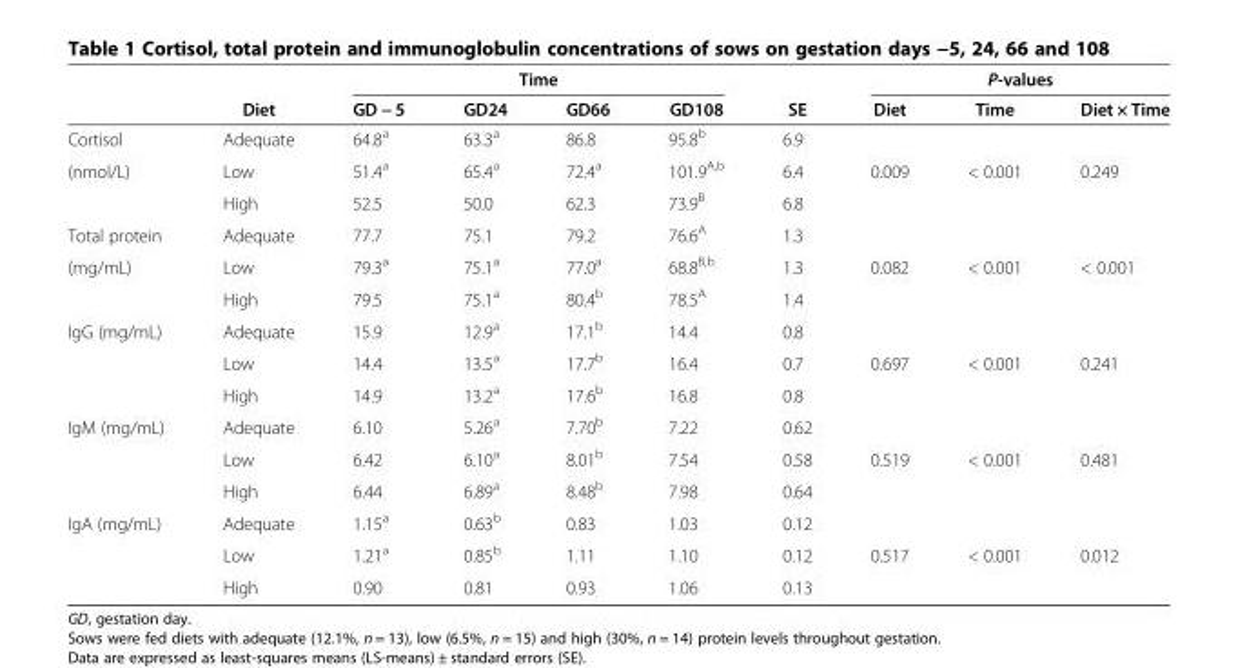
<table><thead><tr><td rowspan="2"></td><td rowspan="2">Diet</td><td colspan="4">Time</td><td rowspan="2">SE</td><td colspan="3">P-values</td></tr><tr><td>GD − 5</td><td>GD24</td><td>GD66</td><td>GD108</td><td>Diet</td><td>Time</td><td>Diet × Time</td></tr></thead><tbody><tr><td>Cortisol</td><td>Adequate</td><td>64.8<sup>a</sup></td><td>63.3<sup>a</sup></td><td>86.8</td><td>95.8<sup>b</sup></td><td>6.9</td><td></td><td></td><td></td></tr><tr><td rowspan="2">(nmol/L)</td><td>Low</td><td>51.4<sup>a</sup></td><td>65.4<sup>a</sup></td><td>72.4<sup>a</sup></td><td>101.9<sup>A,b</sup></td><td>6.4</td><td>0.009</td><td>&lt; 0.001</td><td>0.249</td></tr><tr><td>High</td><td>52.5</td><td>50.0</td><td>62.3</td><td>73.9<sup>B</sup></td><td>6.8</td><td></td><td></td><td></td></tr><tr><td>Total protein</td><td>Adequate</td><td>77.7</td><td>75.1</td><td>79.2</td><td>76.6<sup>A</sup></td><td>1.3</td><td></td><td></td><td></td></tr><tr><td rowspan="2">(mg/mL)</td><td>Low</td><td>79.3<sup>a</sup></td><td>75.1<sup>a</sup></td><td>77.0<sup>a</sup></td><td>68.8<sup>B,b</sup></td><td>1.3</td><td>0.082</td><td>&lt; 0.001</td><td>&lt; 0.001</td></tr><tr><td>High</td><td>79.5</td><td>75.1<sup>a</sup></td><td>80.4<sup>b</sup></td><td>78.5<sup>A</sup></td><td>1.4</td><td></td><td></td><td></td></tr><tr><td rowspan="3">IgG (mg/mL)</td><td>Adequate</td><td>15.9</td><td>12.9<sup>a</sup></td><td>17.1<sup>b</sup></td><td>14.4</td><td>0.8</td><td></td><td></td><td></td></tr><tr><td>Low</td><td>14.4</td><td>13.5<sup>a</sup></td><td>17.7<sup>b</sup></td><td>16.4</td><td>0.7</td><td>0.697</td><td>&lt; 0.001</td><td>0.241</td></tr><tr><td>High</td><td>14.9</td><td>13.2<sup>a</sup></td><td>17.6<sup>b</sup></td><td>16.8</td><td>0.8</td><td></td><td></td><td></td></tr><tr><td rowspan="3">IgM (mg/mL)</td><td>Adequate</td><td>6.10</td><td>5.26<sup>a</sup></td><td>7.70<sup>b</sup></td><td>7.22</td><td>0.62</td><td></td><td></td><td></td></tr><tr><td>Low</td><td>6.42</td><td>6.10<sup>a</sup></td><td>8.01<sup>b</sup></td><td>7.54</td><td>0.58</td><td>0.519</td><td>&lt; 0.001</td><td>0.481</td></tr><tr><td>High</td><td>6.44</td><td>6.89<sup>a</sup></td><td>8.48<sup>b</sup></td><td>7.98</td><td>0.64</td><td></td><td></td><td></td></tr><tr><td rowspan="3">IgA (mg/mL)</td><td>Adequate</td><td>1.15<sup>a</sup></td><td>0.63<sup>b</sup></td><td>0.83</td><td>1.03</td><td>0.12</td><td></td><td></td><td></td></tr><tr><td>Low</td><td>1.21<sup>a</sup></td><td>0.85<sup>b</sup></td><td>1.11</td><td>1.10</td><td>0.12</td><td>0.517</td><td>&lt; 0.001</td><td>0.012</td></tr><tr><td>High</td><td>0.90</td><td>0.81</td><td>0.93</td><td>1.06</td><td>0.13</td><td></td><td></td><td></td></tr></tbody></table>